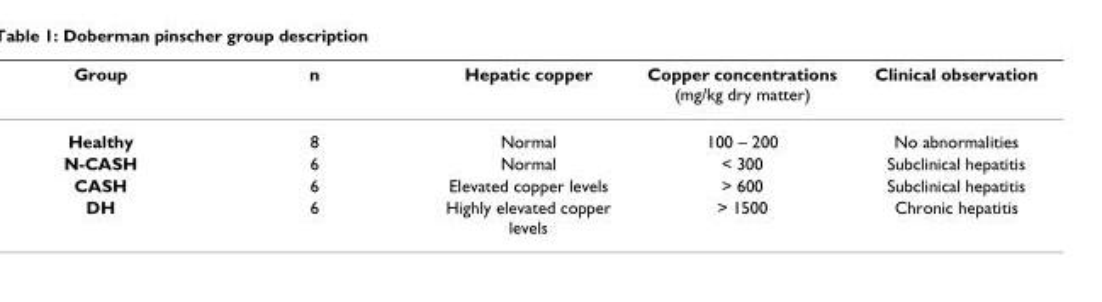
<table><thead><tr><td>Group</td><td>n</td><td>Hepatic copper</td><td>Copper concentrations (mg/kg dry matter)</td><td>Clinical observation</td></tr></thead><tbody><tr><td>Healthy</td><td>8</td><td>Normal</td><td>100 – 200</td><td>No abnormalities</td></tr><tr><td>N-CASH</td><td>6</td><td>Normal</td><td>&lt; 300</td><td>Subclinical hepatitis</td></tr><tr><td>CASH</td><td>6</td><td>Elevated copper levels</td><td>&gt; 600</td><td>Subclinical hepatitis</td></tr><tr><td>DH</td><td>6</td><td>Highly elevated copper levels</td><td>&gt; 1500</td><td>Chronic hepatitis</td></tr></tbody></table>